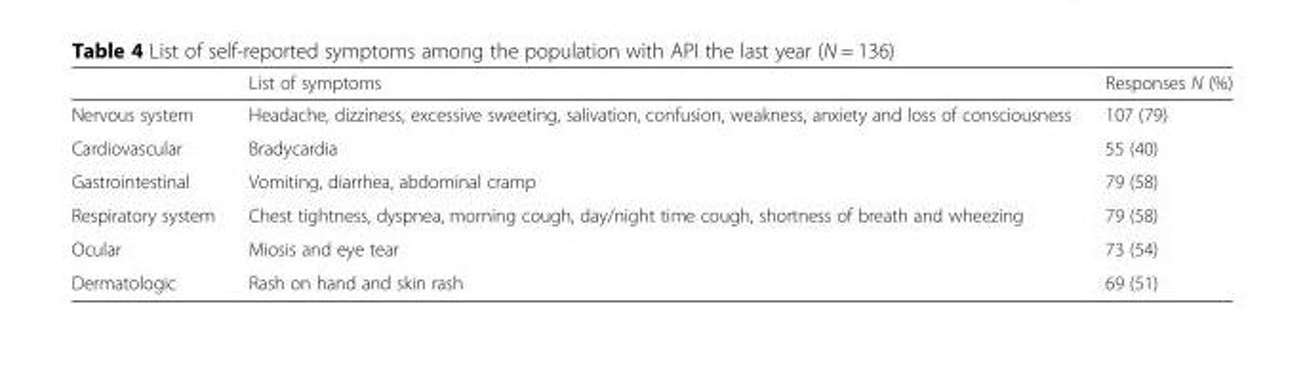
<table><thead><tr><td></td><td>List of symptoms</td><td>Responses N (%)</td></tr></thead><tbody><tr><td>Nervous system</td><td>Headache, dizziness, excessive sweeting, salivation, confusion, weakness, anxiety and loss of consciousness</td><td>107 (79)</td></tr><tr><td>Cardiovascular</td><td>Bradycardia</td><td>55 (40)</td></tr><tr><td>Gastrointestinal</td><td>Vomiting, diarrhea, abdominal cramp</td><td>79 (58)</td></tr><tr><td>Respiratory system</td><td>Chest tightness, dyspnea, morning cough, day/night time cough, shortness of breath and wheezing</td><td>79 (58)</td></tr><tr><td>Ocular</td><td>Miosis and eye tear</td><td>73 (54)</td></tr><tr><td>Dermatologic</td><td>Rash on hand and skin rash</td><td>69 (51)</td></tr></tbody></table>